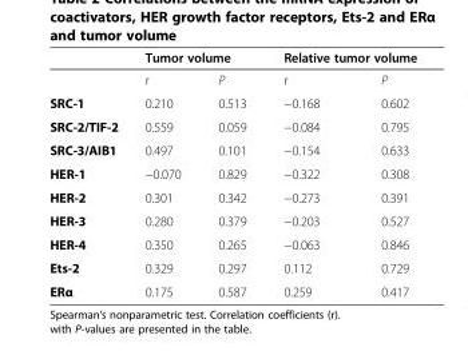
<table><thead><tr><td rowspan="2"></td><td colspan="2">Tumor volume</td><td colspan="2">Relative tumor volume</td></tr><tr><td>r</td><td>P</td><td>r</td><td>P</td></tr></thead><tbody><tr><td>SRC-1</td><td>0.210</td><td>0.513</td><td>−0.168</td><td>0.602</td></tr><tr><td>SRC-2/TIF-2</td><td>0.559</td><td>0.059</td><td>−0.084</td><td>0.795</td></tr><tr><td>SRC-3/AIB1</td><td>0.497</td><td>0.101</td><td>−0.154</td><td>0.633</td></tr><tr><td>HER-1</td><td>−0.070</td><td>0.829</td><td>−0.322</td><td>0.308</td></tr><tr><td>HER-2</td><td>0.301</td><td>0.342</td><td>−0.273</td><td>0.391</td></tr><tr><td>HER-3</td><td>0.280</td><td>0.379</td><td>−0.203</td><td>0.527</td></tr><tr><td>HER-4</td><td>0.350</td><td>0.265</td><td>−0.063</td><td>0.846</td></tr><tr><td>Ets-2</td><td>0.329</td><td>0.297</td><td>0.112</td><td>0.729</td></tr><tr><td>ERα</td><td>0.175</td><td>0.587</td><td>0.259</td><td>0.417</td></tr></tbody></table>